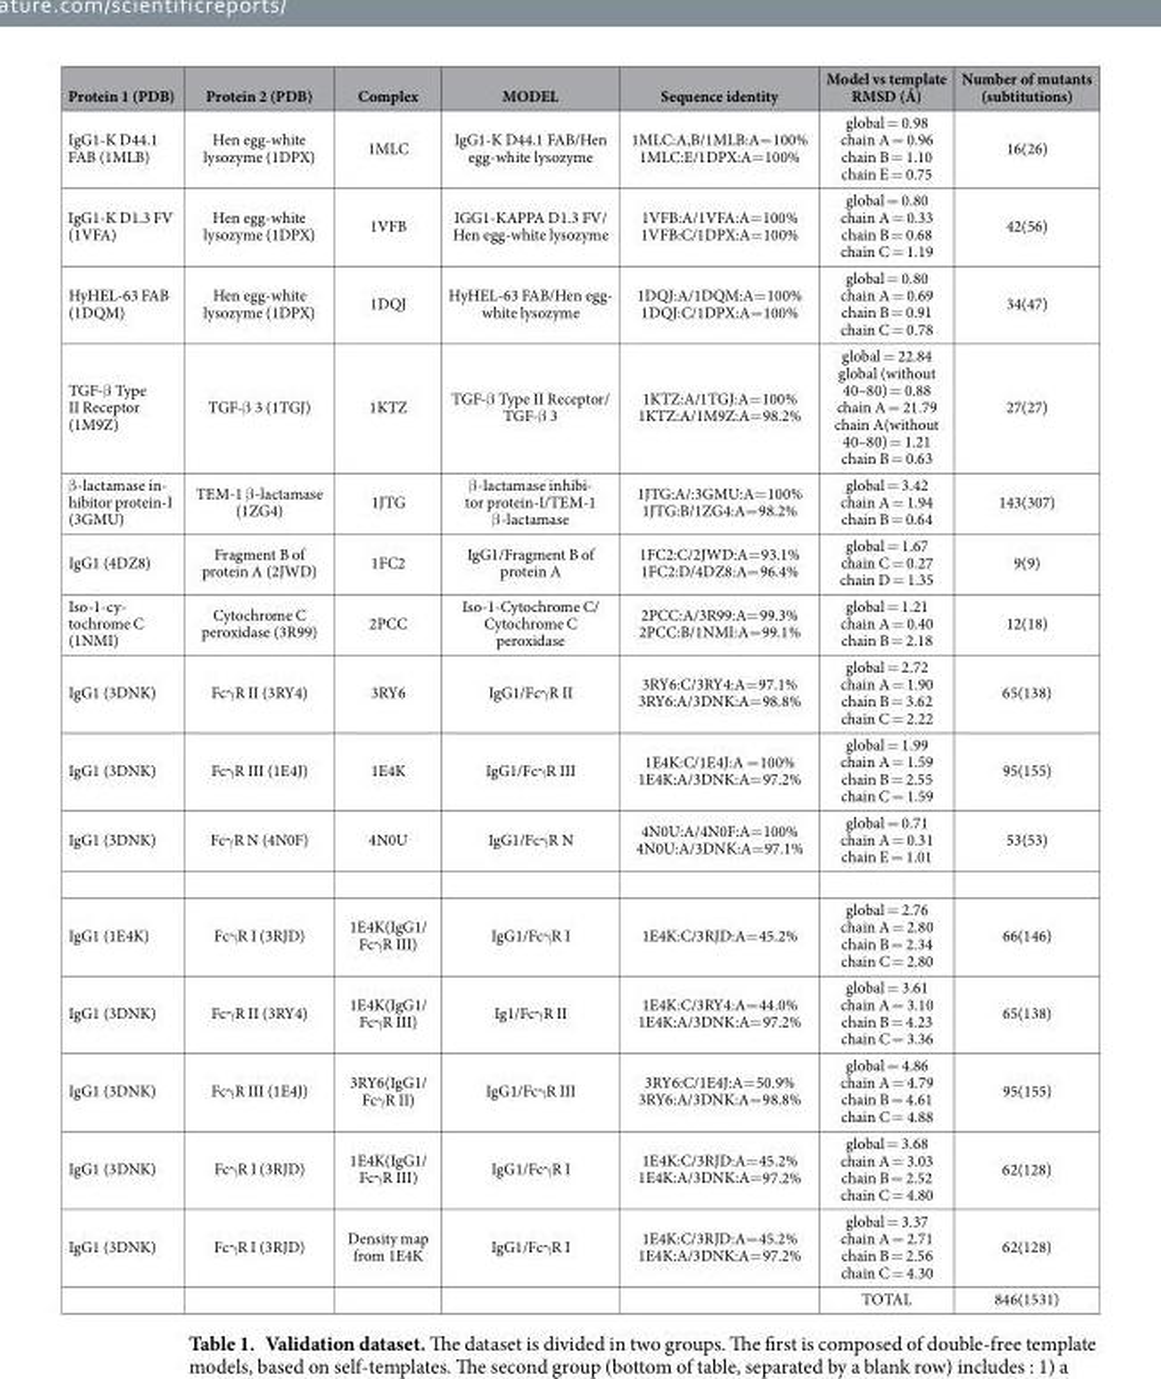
<table><thead><tr><td>Protein 1 (PDB)</td><td>Protein 2 (PDB)</td><td>Complex</td><td>MODEL</td><td>Sequence identity</td><td>Model vs template RMSD (Å)</td><td>Number of mutants (subtitutions)</td></tr></thead><tbody><tr><td>IgG1-K D44.1 FAB (1MLB)</td><td>Hen egg-white lysozyme (1DPX)</td><td>1MLC</td><td>IgG1-K D44.1 FAB/Hen egg-white lysozyme</td><td>1MLC:A,B/1MLB:A= 100% 1MLC:E/1DPX:A= 100%</td><td>global = 0.98 chain A = 0.96 chain B = 1.10 chain E = 0.75</td><td>16(26)</td></tr><tr><td>IgG1-K D1.3 FV (1VFA)</td><td>Hen egg-white lysozyme (1DPX)</td><td>1VFB</td><td>IGG1-KAPPA D1.3 FV/ Hen egg-white lysozyme</td><td>1VFB:A/1VFA:A= 100% 1VFB:C/1DPX:A= 100%</td><td>global = 0.80 chain A = 0.33 chain B = 0.68 chain C = 1.19</td><td>42(56)</td></tr><tr><td>HyHEL-63 FAB (1DQM)</td><td>Hen egg-white lysozyme (1DPX)</td><td>1DQJ</td><td>HyHEL-63 FAB/Hen egg- white lysozyme</td><td>1DQJ:A/1DQM:A= 100% 1DQJ:C/1DPX:A= 100%</td><td>global = 0.80 chain A = 0.69 chain B = 0.91 chain C = 0.78</td><td>34(47)</td></tr><tr><td>TGF-β Type II Receptor (1M9Z)</td><td>TGF-β 3 (1TGJ)</td><td>1KTZ</td><td>TGF-β Type II Receptor/ TGF-β 3</td><td>1KTZ:A/1TGJ:A= 100% 1KTZ:A/1M9Z:A= 98.2%</td><td>global = 22.84 global (without 40–80) = 0.88 chain A = 21.79 chain A(without 40–80) = 1.21 chain B = 0.63</td><td>27(27)</td></tr><tr><td>β -lactamase in- hibitor protein-I (3GMU)</td><td>TEM-1 β -lactamase (1ZG4)</td><td>1JTG</td><td>β -lactamase inhibi- tor protein-I/TEM-1 β -lactamase</td><td>1JTG:A/:3GMU:A= 100% 1JTG:B/1ZG4:A= 98.2%</td><td>global = 3.42 chain A = 1.94 chain B = 0.64</td><td>143(307)</td></tr><tr><td>IgG1 (4DZ8)</td><td>Fragment B of protein A (2JWD)</td><td>1FC2</td><td>IgG1/Fragment B of protein A</td><td>1FC2:C/2JWD:A= 93.1% 1FC2:D/4DZ8:A= 96.4%</td><td>global = 1.67 chain C = 0.27 chain D = 1.35</td><td>9(9)</td></tr><tr><td>Iso-1-cy- tochrome C (1NMI)</td><td>Cytochrome C peroxidase (3R99)</td><td>2PCC</td><td>Iso-1-Cytochrome C/ Cytochrome C peroxidase</td><td>2PCC:A/3R99:A= 99.3% 2PCC:B/1NMI:A= 99.1%</td><td>global = 1.21 chain A = 0.40 chain B = 2.18</td><td>12(18)</td></tr><tr><td>IgG1 (3DNK)</td><td>Fcγ R II (3RY4)</td><td>3RY6</td><td>IgG1/Fcγ R II</td><td>3RY6:C/3RY4:A= 97.1% 3RY6:A/3DNK:A= 98.8%</td><td>global = 2.72 chain A = 1.90 chain B = 3.62 chain C = 2.22</td><td>65(138)</td></tr><tr><td>IgG1 (3DNK)</td><td>Fcγ R III (1E4J)</td><td>1E4K</td><td>IgG1/Fcγ R III</td><td>1E4K:C/1E4J:A = 100% 1E4K:A/3DNK:A= 97.2%</td><td>global = 1.99 chain A = 1.59 chain B = 2.55 chain C = 1.59</td><td>95(155)</td></tr><tr><td>IgG1 (3DNK)</td><td>Fcγ R N (4N0F)</td><td>4N0U</td><td>IgG1/Fcγ R N</td><td>4N0U:A/4N0F:A= 100% 4N0U:A/3DNK:A= 97.1%</td><td>global = 0.71 chain A = 0.31 chain E = 1.01</td><td>53(53)</td></tr><tr><td>IgG1 (1E4K)</td><td>Fcγ R I (3RJD)</td><td>1E4K(IgG1/ Fcγ R III)</td><td>IgG1/Fcγ R I</td><td>1E4K:C/3RJD:A= 45.2%</td><td>global = 2.76 chain A = 2.80 chain B = 2.34 chain C = 2.80</td><td>66(146)</td></tr><tr><td>IgG1 (3DNK)</td><td>Fcγ R II (3RY4)</td><td>1E4K(IgG1/ Fcγ R III)</td><td>Ig1/Fcγ R II</td><td>1E4K:C/3RY4:A= 44.0% 1E4K:A/3DNK:A= 97.2%</td><td>global = 3.61 chain A = 3.10 chain B = 4.23 chain C = 3.36</td><td>65(138)</td></tr><tr><td>IgG1 (3DNK)</td><td>Fcγ R III (1E4J)</td><td>3RY6(IgG1/ Fcγ R II)</td><td>IgG1/Fcγ R III</td><td>3RY6:C/1E4J:A= 50.9% 3RY6:A/3DNK:A= 98.8%</td><td>global = 4.86 chain A = 4.79 chain B = 4.61 chain C = 4.88</td><td>95(155)</td></tr><tr><td>IgG1 (3DNK)</td><td>Fcγ R I (3RJD)</td><td>1E4K(IgG1/ Fcγ R III)</td><td>IgG1/Fcγ R I</td><td>1E4K:C/3RJD:A= 45.2% 1E4K:A/3DNK:A= 97.2%</td><td>global = 3.68 chain A = 3.03 chain B = 2.52 chain C = 4.80</td><td>62(128)</td></tr><tr><td rowspan="2">IgG1 (3DNK)</td><td>Fcγ R I (3RJD)</td><td>Density map from 1E4K</td><td>IgG1/Fcγ R I</td><td>1E4K:C/3RJD:A= 45.2% 1E4K:A/3DNK:A= 97.2%</td><td>global = 3.37 chain A = 2.71 chain B = 2.56 chain C = 4.30</td><td>62(128)</td></tr><tr><td></td><td></td><td></td><td></td><td>TOTAL</td><td>846(1531)</td></tr></tbody></table>